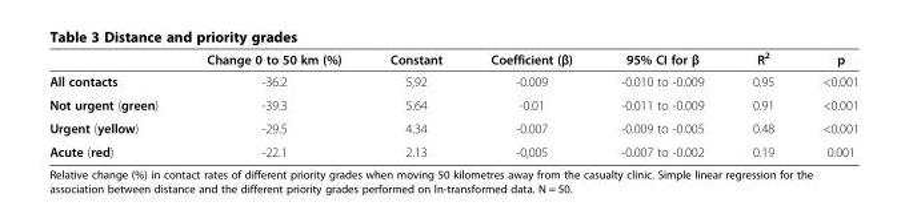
<table><thead><tr><td></td><td>Change 0 to 50 km (%)</td><td>Constant</td><td>Coefficient (β)</td><td>95% CI for β</td><td>R<sup>2</sup></td><td>p</td></tr></thead><tbody><tr><td>All contacts</td><td>-36.2</td><td>5,92</td><td>-0.009</td><td>-0.010 to -0.009</td><td>0.95</td><td>&lt;0.001</td></tr><tr><td>Not urgent (green)</td><td>-39.3</td><td>5.64</td><td>-0.01</td><td>-0.011 to -0.009</td><td>0.91</td><td>&lt;0.001</td></tr><tr><td>Urgent (yellow)</td><td>-29.5</td><td>4.34</td><td>-0.007</td><td>-0.009 to -0.005</td><td>0.48</td><td>&lt;0.001</td></tr><tr><td>Acute (red)</td><td>-22.1</td><td>2.13</td><td>-0,005</td><td>-0.007 to -0.002</td><td>0.19</td><td>0.001</td></tr></tbody></table>